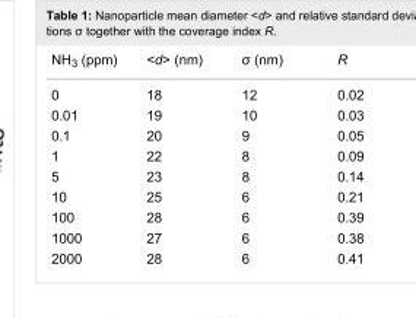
<table><tbody><tr><td>NH<sub>3</sub> (ppm)</td><td>&lt;d&gt; (nm)</td><td>σ (nm)</td><td>R</td></tr><tr><td>0</td><td>18</td><td>12</td><td>0.02</td></tr><tr><td>0.01</td><td>19</td><td>10</td><td>0.03</td></tr><tr><td>0.1</td><td>20</td><td>9</td><td>0.05</td></tr><tr><td>1</td><td>22</td><td>8</td><td>0.09</td></tr><tr><td>5</td><td>23</td><td>8</td><td>0.14</td></tr><tr><td>10</td><td>25</td><td>6</td><td>0.21</td></tr><tr><td>100</td><td>28</td><td>6</td><td>0.39</td></tr><tr><td>1000</td><td>27</td><td>6</td><td>0.38</td></tr><tr><td>2000</td><td>28</td><td>6</td><td>0.41</td></tr></tbody></table>